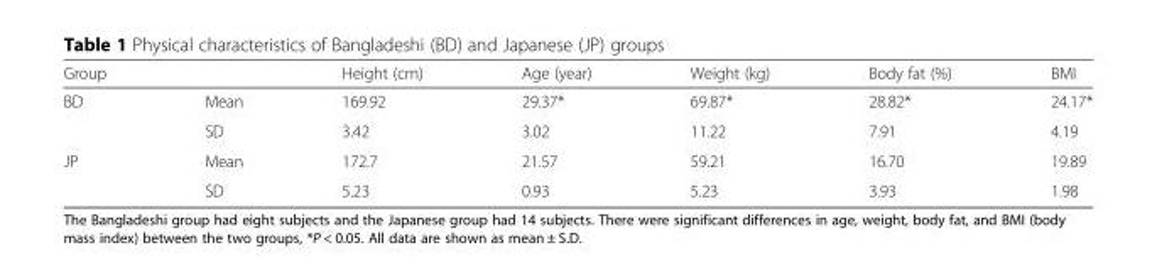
<table><thead><tr><td>Group</td><td></td><td>Height (cm)</td><td>Age (year)</td><td>Weight (kg)</td><td>Body fat (%)</td><td>BMI</td></tr></thead><tbody><tr><td rowspan="2">BD</td><td>Mean</td><td>169.92</td><td>29.37*</td><td>69.87*</td><td>28.82*</td><td>24.17*</td></tr><tr><td>SD</td><td>3.42</td><td>3.02</td><td>11.22</td><td>7.91</td><td>4.19</td></tr><tr><td rowspan="2">JP</td><td>Mean</td><td>172.7</td><td>21.57</td><td>59.21</td><td>16.70</td><td>19.89</td></tr><tr><td>SD</td><td>5.23</td><td>0.93</td><td>5.23</td><td>3.93</td><td>1.98</td></tr></tbody></table>